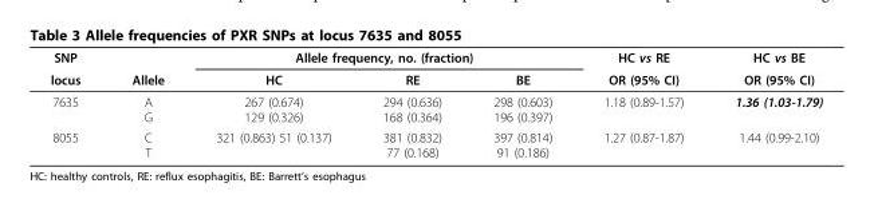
<table><thead><tr><td rowspan="2">SNP locus</td><td rowspan="2">Allele</td><td colspan="3">Allele frequency, no. (fraction)</td><td rowspan="2">HC vs RE OR (95% CI)</td><td rowspan="2">HC vs BE OR (95% CI)</td></tr><tr><td>HC</td><td>RE</td><td>BE</td></tr></thead><tbody><tr><td>7635</td><td>A G</td><td>267 (0.674) 129 (0.326)</td><td>294 (0.636) 168 (0.364)</td><td>298 (0.603) 196 (0.397)</td><td>1.18 (0.89-1.57)</td><td>1.36 (1.03-1.79)</td></tr><tr><td>8055</td><td>C T</td><td>321 (0.863) 51 (0.137)</td><td>381 (0.832) 77 (0.168)</td><td>397 (0.814) 91 (0.186)</td><td>1.27 (0.87-1.87)</td><td>1.44 (0.99-2.10)</td></tr></tbody></table>